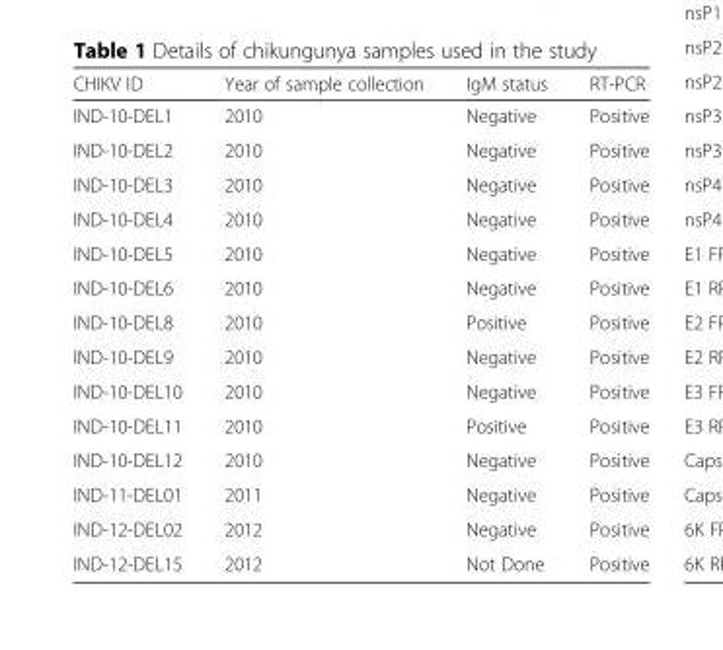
<table><thead><tr><td>CHIKV ID</td><td>Year of sample collection</td><td>IgM status</td><td>RT-PCR</td></tr></thead><tbody><tr><td>IND-10-DEL1</td><td>2010</td><td>Negative</td><td>Positive</td></tr><tr><td>IND-10-DEL2</td><td>2010</td><td>Negative</td><td>Positive</td></tr><tr><td>IND-10-DEL3</td><td>2010</td><td>Negative</td><td>Positive</td></tr><tr><td>IND-10-DEL4</td><td>2010</td><td>Negative</td><td>Positive</td></tr><tr><td>IND-10-DEL5</td><td>2010</td><td>Negative</td><td>Positive</td></tr><tr><td>IND-10-DEL6</td><td>2010</td><td>Negative</td><td>Positive</td></tr><tr><td>IND-10-DEL8</td><td>2010</td><td>Positive</td><td>Positive</td></tr><tr><td>IND-10-DEL9</td><td>2010</td><td>Negative</td><td>Positive</td></tr><tr><td>IND-10-DEL10</td><td>2010</td><td>Negative</td><td>Positive</td></tr><tr><td>IND-10-DEL11</td><td>2010</td><td>Positive</td><td>Positive</td></tr><tr><td>IND-10-DEL12</td><td>2010</td><td>Negative</td><td>Positive</td></tr><tr><td>IND-11-DEL01</td><td>2011</td><td>Negative</td><td>Positive</td></tr><tr><td>IND-12-DEL02</td><td>2012</td><td>Negative</td><td>Positive</td></tr><tr><td>IND-12-DEL15</td><td>2012</td><td>Not Done</td><td>Positive</td></tr></tbody></table>